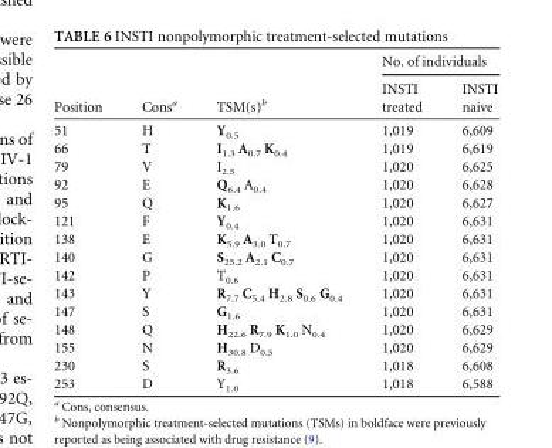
<table><thead><tr><td rowspan="2">Position</td><td rowspan="2">Cons<sup>a</sup></td><td rowspan="2">TSM(s)<sup>b</sup></td><td colspan="2">No. of individuals</td></tr><tr><td>INSTI treated</td><td>INSTI naive</td></tr></thead><tbody><tr><td>51</td><td>H</td><td>Y<sub>0.5</sub></td><td>1,019</td><td>6,609</td></tr><tr><td>66</td><td>T</td><td>I<sub>1.3</sub> A<sub>0.7</sub> K<sub>0.4</sub></td><td>1,019</td><td>6,619</td></tr><tr><td>79</td><td>V</td><td>I<sub>2.5</sub></td><td>1,020</td><td>6,625</td></tr><tr><td>92</td><td>E</td><td>Q<sub>6.4</sub> A<sub>0.4</sub></td><td>1,020</td><td>6,628</td></tr><tr><td>95</td><td>Q</td><td>K<sub>1.6</sub></td><td>1,020</td><td>6,627</td></tr><tr><td>121</td><td>F</td><td>Y<sub>0.4</sub></td><td>1,020</td><td>6,631</td></tr><tr><td>138</td><td>E</td><td>K<sub>5.9</sub> A<sub>3.0</sub> T<sub>0.7</sub></td><td>1,020</td><td>6,631</td></tr><tr><td>140</td><td>G</td><td>S<sub>25.2</sub> A<sub>2.1</sub> C<sub>0.7</sub></td><td>1,020</td><td>6,631</td></tr><tr><td>142</td><td>P</td><td>T<sub>0.6</sub></td><td>1,020</td><td>6,631</td></tr><tr><td>143</td><td>Y</td><td>R<sub>7.7</sub> C<sub>5.4</sub> H<sub>2.8</sub> S<sub>0.6</sub> G<sub>0.4</sub></td><td>1,020</td><td>6,631</td></tr><tr><td>147</td><td>S</td><td>G<sub>1.6</sub></td><td>1,020</td><td>6,631</td></tr><tr><td>148</td><td>Q</td><td>H<sub>22.6</sub> R<sub>7.9</sub> K<sub>1.0</sub> N<sub>0.4</sub></td><td>1,020</td><td>6,629</td></tr><tr><td>155</td><td>N</td><td>H<sub>30.8</sub> D<sub>0.5</sub></td><td>1,020</td><td>6,629</td></tr><tr><td>230</td><td>S</td><td>R<sub>3.6</sub></td><td>1,018</td><td>6,608</td></tr><tr><td>253</td><td>D</td><td>Y<sub>1.0</sub></td><td>1,018</td><td>6,588</td></tr></tbody></table>